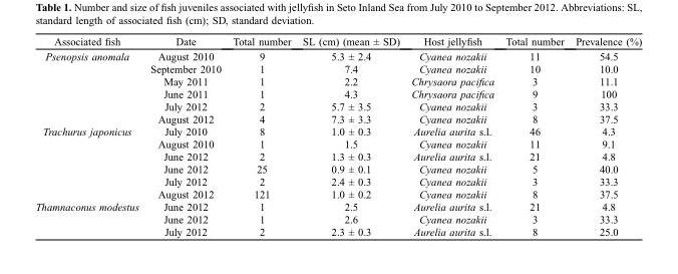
<table><thead><tr><td>Associated fish</td><td>Date</td><td>Total number</td><td>SL (cm) (mean ± SD)</td><td>Host jellyfish</td><td>Total number</td><td>Prevalence (%)</td></tr></thead><tbody><tr><td rowspan="6">Psenopsis anomala</td><td>August 2010</td><td>9</td><td>5.3 ± 2.4</td><td>Cyanea nozakii</td><td>11</td><td>54.5</td></tr><tr><td>September 2010</td><td>1</td><td>7.4</td><td>Cyanea nozakii</td><td>10</td><td>10.0</td></tr><tr><td>May 2011</td><td>1</td><td>2.2</td><td>Chrysaora pacifica</td><td>3</td><td>11.1</td></tr><tr><td>June 2011</td><td>1</td><td>4.3</td><td>Chrysaora pacifica</td><td>9</td><td>100</td></tr><tr><td>July 2012</td><td>2</td><td>5.7 ± 3.5</td><td>Cyanea nozakii</td><td>3</td><td>33.3</td></tr><tr><td>August 2012</td><td>4</td><td>7.3 ± 3.3</td><td>Cyanea nozakii</td><td>8</td><td>37.5</td></tr><tr><td rowspan="6">Trachurus japonicus</td><td>July 2010</td><td>8</td><td>1.0 ± 0.3</td><td>Aurelia aurita s.l.</td><td>46</td><td>4.3</td></tr><tr><td>August 2010</td><td>1</td><td>1.5</td><td>Cyanea nozakii</td><td>11</td><td>9.1</td></tr><tr><td>June 2012</td><td>2</td><td>1.3 ± 0.3</td><td>Aurelia aurita s.l.</td><td>21</td><td>4.8</td></tr><tr><td>June 2012</td><td>25</td><td>0.9 ± 0.1</td><td>Cyanea nozakii</td><td>5</td><td>40.0</td></tr><tr><td>July 2012</td><td>2</td><td>2.4 ± 0.3</td><td>Cyanea nozakii</td><td>3</td><td>33.3</td></tr><tr><td>August 2012</td><td>121</td><td>1.0 ± 0.2</td><td>Cyanea nozakii</td><td>8</td><td>37.5</td></tr><tr><td rowspan="3">Thamnaconus modestus</td><td>June 2012</td><td>1</td><td>2.5</td><td>Aurelia aurita s.l.</td><td>21</td><td>4.8</td></tr><tr><td>June 2012</td><td>1</td><td>2.6</td><td>Cyanea nozakii</td><td>3</td><td>33.3</td></tr><tr><td>July 2012</td><td>2</td><td>2.3 ± 0.3</td><td>Aurelia aurita s.l.</td><td>8</td><td>25.0</td></tr></tbody></table>